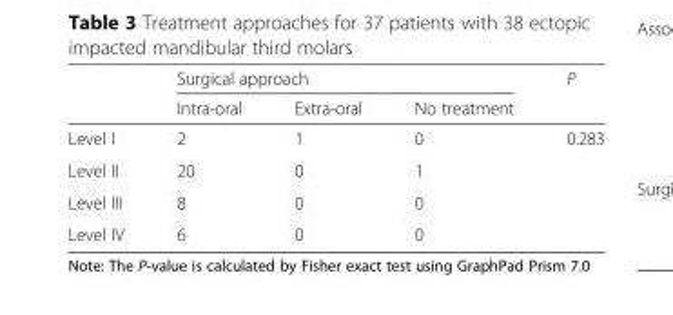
<table><thead><tr><td rowspan="2"></td><td colspan="3">Surgical approach</td><td rowspan="2">P</td></tr><tr><td>Intra-oral</td><td>Extra-oral</td><td>No treatment</td></tr></thead><tbody><tr><td>Level I</td><td>2</td><td>1</td><td>0</td><td>0.283</td></tr><tr><td>Level II</td><td>20</td><td>0</td><td>1</td><td></td></tr><tr><td>Level III</td><td>8</td><td>0</td><td>0</td><td></td></tr><tr><td>Level IV</td><td>6</td><td>0</td><td>0</td><td></td></tr></tbody></table>